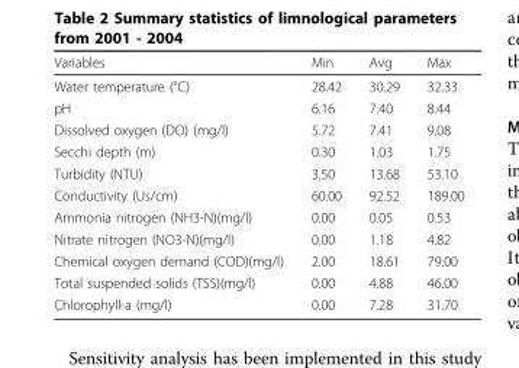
<table><thead><tr><td>Variables</td><td>Min</td><td>Avg</td><td>Max</td></tr></thead><tbody><tr><td>Water temperature (°C)</td><td>28.42</td><td>30.29</td><td>32.33</td></tr><tr><td>pH</td><td>6.16</td><td>7.40</td><td>8.44</td></tr><tr><td>Dissolved oxygen (DO) (mg/l)</td><td>5.72</td><td>7.41</td><td>9.08</td></tr><tr><td>Secchi depth (m)</td><td>0.30</td><td>1.03</td><td>1.75</td></tr><tr><td>Turbidity (NTU)</td><td>3.50</td><td>13.68</td><td>53.10</td></tr><tr><td>Conductivity (Us/cm)</td><td>60.00</td><td>92.52</td><td>189.00</td></tr><tr><td>Ammonia nitrogen (NH3-N)(mg/l)</td><td>0.00</td><td>0.05</td><td>0.53</td></tr><tr><td>Nitrate nitrogen (NO3-N)(mg/l)</td><td>0.00</td><td>1.18</td><td>4.82</td></tr><tr><td>Chemical oxygen demand (COD)(mg/l)</td><td>2.00</td><td>18.61</td><td>79.00</td></tr><tr><td>Total suspended solids (TSS)(mg/l)</td><td>0.00</td><td>4.88</td><td>46.00</td></tr><tr><td>Chlorophyll-a (mg/l)</td><td>0.00</td><td>7.28</td><td>31.70</td></tr></tbody></table>